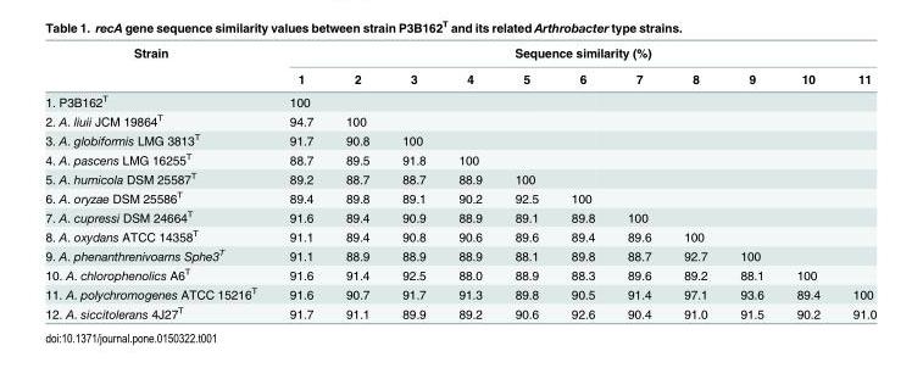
<table><thead><tr><td rowspan="2">Strain</td><td colspan="11">Sequence similarity (%)</td></tr><tr><td>1</td><td>2</td><td>3</td><td>4</td><td>5</td><td>6</td><td>7</td><td>8</td><td>9</td><td>10</td><td>11</td></tr></thead><tbody><tr><td>1. P3B162<sup>T</sup></td><td>100</td><td></td><td></td><td></td><td></td><td></td><td></td><td></td><td></td><td></td><td></td></tr><tr><td>2. A. liuii JCM 19864<sup>T</sup></td><td>94.7</td><td>100</td><td></td><td></td><td></td><td></td><td></td><td></td><td></td><td></td><td></td></tr><tr><td>3. A. globiformis LMG 3813<sup>T</sup></td><td>91.7</td><td>90.8</td><td>100</td><td></td><td></td><td></td><td></td><td></td><td></td><td></td><td></td></tr><tr><td>4. A. pascens LMG 16255<sup>T</sup></td><td>88.7</td><td>89.5</td><td>91.8</td><td>100</td><td></td><td></td><td></td><td></td><td></td><td></td><td></td></tr><tr><td>5. A. humicola DSM 25587<sup>T</sup></td><td>89.2</td><td>88.7</td><td>88.7</td><td>88.9</td><td>100</td><td></td><td></td><td></td><td></td><td></td><td></td></tr><tr><td>6. A. oryzae DSM 25586<sup>T</sup></td><td>89.4</td><td>89.8</td><td>89.1</td><td>90.2</td><td>92.5</td><td>100</td><td></td><td></td><td></td><td></td><td></td></tr><tr><td>7. A. cupressi DSM 24664<sup>T</sup></td><td>91.6</td><td>89.4</td><td>90.9</td><td>88.9</td><td>89.1</td><td>89.8</td><td>100</td><td></td><td></td><td></td><td></td></tr><tr><td>8. A. oxydans ATCC 14358<sup>T</sup></td><td>91.1</td><td>89.4</td><td>90.8</td><td>90.6</td><td>89.6</td><td>89.4</td><td>89.6</td><td>100</td><td></td><td></td><td></td></tr><tr><td>9. A. phenanthrenivoarns Sphe3<sup>T</sup></td><td>91.1</td><td>88.9</td><td>88.9</td><td>88.9</td><td>88.1</td><td>89.8</td><td>88.7</td><td>92.7</td><td>100</td><td></td><td></td></tr><tr><td>10. A. chlorophenolics A6<sup>T</sup></td><td>91.6</td><td>91.4</td><td>92.5</td><td>88.0</td><td>88.9</td><td>88.3</td><td>89.6</td><td>89.2</td><td>88.1</td><td>100</td><td></td></tr><tr><td>11. A. polychromogenes ATCC 15216<sup>T</sup></td><td>91.6</td><td>90.7</td><td>91.7</td><td>91.3</td><td>89.8</td><td>90.5</td><td>91.4</td><td>97.1</td><td>93.6</td><td>89.4</td><td>100</td></tr><tr><td>12. A. siccitolerans 4J27<sup>T</sup></td><td>91.7</td><td>91.1</td><td>89.9</td><td>89.2</td><td>90.6</td><td>92.6</td><td>90.4</td><td>91.0</td><td>91.5</td><td>90.2</td><td>91.0</td></tr></tbody></table>